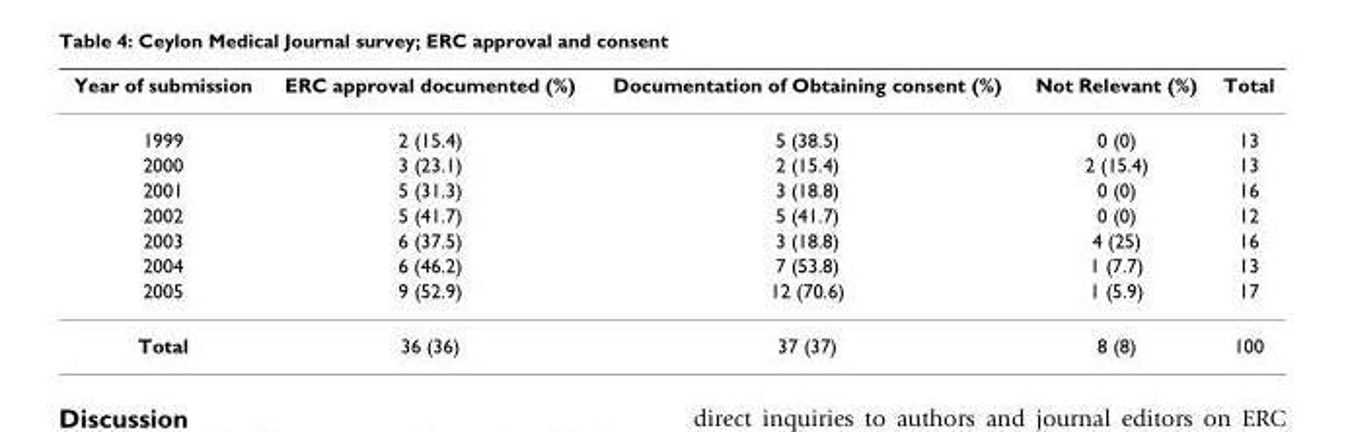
<table><thead><tr><td>Year of submission</td><td>ERC approval documented (%)</td><td>Documentation of Obtaining consent (%)</td><td>Not Relevant (%)</td><td>Total</td></tr></thead><tbody><tr><td>1999</td><td>2 (15.4)</td><td>5 (38.5)</td><td>0 (0)</td><td>13</td></tr><tr><td>2000</td><td>3 (23.1)</td><td>2 (15.4)</td><td>2 (15.4)</td><td>13</td></tr><tr><td>2001</td><td>5 (31.3)</td><td>3 (18.8)</td><td>0 (0)</td><td>16</td></tr><tr><td>2002</td><td>5 (41.7)</td><td>5 (41.7)</td><td>0 (0)</td><td>12</td></tr><tr><td>2003</td><td>6 (37.5)</td><td>3 (18.8)</td><td>4 (25)</td><td>16</td></tr><tr><td>2004</td><td>6 (46.2)</td><td>7 (53.8)</td><td>1 (7.7)</td><td>13</td></tr><tr><td>2005</td><td>9 (52.9)</td><td>12 (70.6)</td><td>1 (5.9)</td><td>17</td></tr><tr><td>Total</td><td>36 (36)</td><td>37 (37)</td><td>8 (8)</td><td>100</td></tr></tbody></table>